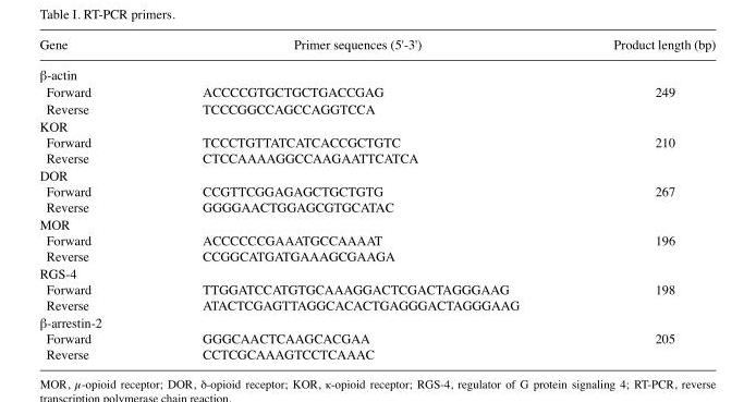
<table><thead><tr><td>Gene</td><td>Primer sequences (5&#x27;-3&#x27;)</td><td>Product length (bp)</td></tr></thead><tbody><tr><td colspan="3">β-actin</td></tr><tr><td>Forward</td><td>ACCCCGTGCTGCTGACCGAG</td><td>249</td></tr><tr><td>Reverse</td><td>TCCCGGCCAGCCAGGTCCA</td><td></td></tr><tr><td colspan="3">KOR</td></tr><tr><td>Forward</td><td>TCCCTGTTATCATCACCGCTGTC</td><td>210</td></tr><tr><td>Reverse</td><td>CTCCAAAAGGCCAAGAATTCATCA</td><td></td></tr><tr><td colspan="3">DOR</td></tr><tr><td>Forward</td><td>CCGTTCGGAGAGCTGCTGTG</td><td>267</td></tr><tr><td>Reverse</td><td>GGGGAACTGGAGCGTGCATAC</td><td></td></tr><tr><td colspan="3">MOR</td></tr><tr><td>Forward</td><td>ACCCCCCGAAATGCCAAAAT</td><td>196</td></tr><tr><td>Reverse</td><td>CCGGCATGATGAAAGCGAAGA</td><td></td></tr><tr><td colspan="3">RGS-4</td></tr><tr><td>Forward</td><td>TTGGATCCATGTGCAAAGGACTCGACTAGGGAAG</td><td>198</td></tr><tr><td>Reverse</td><td>ATACTCGAGTTAGGCACACTGAGGGACTAGGGAAG</td><td></td></tr><tr><td colspan="3">β-arrestin-2</td></tr><tr><td>Forward</td><td>GGGCAACTCAAGCACGAA</td><td>205</td></tr><tr><td>Reverse</td><td>CCTCGCAAAGTCCTCAAAC</td><td></td></tr></tbody></table>